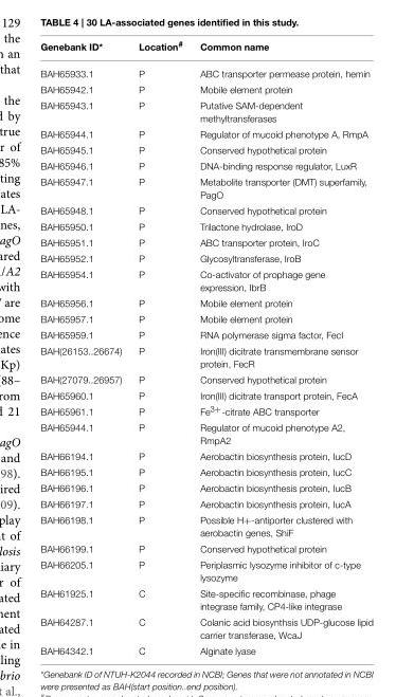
<table><thead><tr><td>Genebank ID*</td><td>Location<sup>#</sup></td><td>Common name</td></tr></thead><tbody><tr><td>BAH65933.1</td><td>P</td><td>ABC transporter permease protein, hemin</td></tr><tr><td>BAH65942.1</td><td>P</td><td>Mobile element protein</td></tr><tr><td>BAH65943.1</td><td>P</td><td>Putative SAM-dependent methyltransferases</td></tr><tr><td>BAH65944.1</td><td>P</td><td>Regulator of mucoid phenotype A, RmpA</td></tr><tr><td>BAH65945.1</td><td>P</td><td>Conserved hypothetical protein</td></tr><tr><td>BAH65946.1</td><td>P</td><td>DNA-binding response regulator, LuxR</td></tr><tr><td>BAH65947.1</td><td>P</td><td>Metabolite transporter (DMT) superfamily, PagO</td></tr><tr><td>BAH65948.1</td><td>P</td><td>Conserved hypothetical protein</td></tr><tr><td>BAH65950.1</td><td>P</td><td>Trilactone hydrolase, IroD</td></tr><tr><td>BAH65951.1</td><td>P</td><td>ABC transporter protein, IroC</td></tr><tr><td>BAH65952.1</td><td>P</td><td>Glycosyltransferase, IroB</td></tr><tr><td>BAH65954.1</td><td>P</td><td>Co-activator of prophage gene expression, IbrB</td></tr><tr><td>BAH65956.1</td><td>P</td><td>Mobile element protein</td></tr><tr><td>BAH65957.1</td><td>P</td><td>Mobile element protein</td></tr><tr><td>BAH65959.1</td><td>P</td><td>RNA polymerase sigma factor, FecI</td></tr><tr><td>BAH(26153..26674)</td><td>P</td><td>Iron(III) dicitrate transmembrane sensor protein, FecR</td></tr><tr><td>BAH(27079..26957)</td><td>P</td><td>Conserved hypothetical protein</td></tr><tr><td>BAH65960.1</td><td>P</td><td>Iron(III) dicitrate transport protein, FecA</td></tr><tr><td>BAH65961.1</td><td>P</td><td>Fe<sup>3+</sup>-citrate ABC transporter</td></tr><tr><td>BAH65944.1</td><td>P</td><td>Regulator of mucoid phenotype A2, RmpA2</td></tr><tr><td>BAH66194.1</td><td>P</td><td>Aerobactin biosynthesis protein, IucD</td></tr><tr><td>BAH66195.1</td><td>P</td><td>Aerobactin biosynthesis protein, IucC</td></tr><tr><td>BAH66196.1</td><td>P</td><td>Aerobactin biosynthesis protein, IucB</td></tr><tr><td>BAH66197.1</td><td>P</td><td>Aerobactin biosynthesis protein, IucA</td></tr><tr><td>BAH66198.1</td><td>P</td><td>Possible H+-antiporter clustered with aerobactin genes, ShiF</td></tr><tr><td>BAH66199.1</td><td>P</td><td>Conserved hypothetical protein</td></tr><tr><td>BAH66205.1</td><td>P</td><td>Periplasmic lysozyme inhibitor of c-type lysozyme</td></tr><tr><td>BAH61925.1</td><td>C</td><td>Site-specific recombinase, phage integrase family, CP4-like integrase</td></tr><tr><td>BAH64287.1</td><td>C</td><td>Colanic acid biosynthsis UDP-glucose lipid carrier transferase, WcaJ</td></tr><tr><td>BAH64342.1</td><td>C</td><td>Alginate lyase</td></tr></tbody></table>